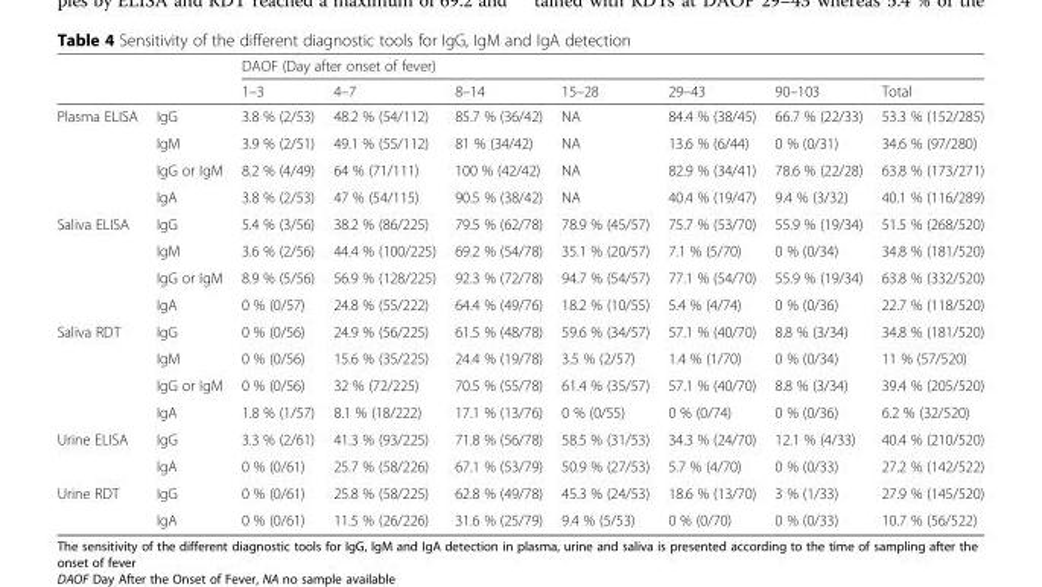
<table><thead><tr><td rowspan="2"></td><td rowspan="2"></td><td colspan="7">DAOF (Day after onset of fever)</td></tr><tr><td>1–3</td><td>4–7</td><td>8–14</td><td>15–28</td><td>29–43</td><td>90–103</td><td>Total</td></tr></thead><tbody><tr><td rowspan="4">Plasma ELISA</td><td>IgG</td><td>3.8 % (2/53)</td><td>48.2 % (54/112)</td><td>85.7 % (36/42)</td><td>NA</td><td>84.4 % (38/45)</td><td>66.7 % (22/33)</td><td>53.3 % (152/285)</td></tr><tr><td>IgM</td><td>3.9 % (2/51)</td><td>49.1 % (55/112)</td><td>81 % (34/42)</td><td>NA</td><td>13.6 % (6/44)</td><td>0 % (0/31)</td><td>34.6 % (97/280)</td></tr><tr><td>IgG or IgM</td><td>8.2 % (4/49)</td><td>64 % (71/111)</td><td>100 % (42/42)</td><td>NA</td><td>82.9 % (34/41)</td><td>78.6 % (22/28)</td><td>63.8 % (173/271)</td></tr><tr><td>IgA</td><td>3.8 % (2/53)</td><td>47 % (54/115)</td><td>90.5 % (38/42)</td><td>NA</td><td>40.4 % (19/47)</td><td>9.4 % (3/32)</td><td>40.1 % (116/289)</td></tr><tr><td rowspan="4">Saliva ELISA</td><td>IgG</td><td>5.4 % (3/56)</td><td>38.2 % (86/225)</td><td>79.5 % (62/78)</td><td>78.9 % (45/57)</td><td>75.7 % (53/70)</td><td>55.9 % (19/34)</td><td>51.5 % (268/520)</td></tr><tr><td>IgM</td><td>3.6 % (2/56)</td><td>44.4 % (100/225)</td><td>69.2 % (54/78)</td><td>35.1 % (20/57)</td><td>7.1 % (5/70)</td><td>0 % (0/34)</td><td>34.8 % (181/520)</td></tr><tr><td>IgG or IgM</td><td>8.9 % (5/56)</td><td>56.9 % (128/225)</td><td>92.3 % (72/78)</td><td>94.7 % (54/57)</td><td>77.1 % (54/70)</td><td>55.9 % (19/34)</td><td>63.8 % (332/520)</td></tr><tr><td>IgA</td><td>0 % (0/57)</td><td>24.8 % (55/222)</td><td>64.4 % (49/76)</td><td>18.2 % (10/55)</td><td>5.4 % (4/74)</td><td>0 % (0/36)</td><td>22.7 % (118/520)</td></tr><tr><td rowspan="4">Saliva RDT</td><td>IgG</td><td>0 % (0/56)</td><td>24.9 % (56/225)</td><td>61.5 % (48/78)</td><td>59.6 % (34/57)</td><td>57.1 % (40/70)</td><td>8.8 % (3/34)</td><td>34.8 % (181/520)</td></tr><tr><td>IgM</td><td>0 % (0/56)</td><td>15.6 % (35/225)</td><td>24.4 % (19/78)</td><td>3.5 % (2/57)</td><td>1.4 % (1/70)</td><td>0 % (0/34)</td><td>11 % (57/520)</td></tr><tr><td>IgG or IgM</td><td>0 % (0/56)</td><td>32 % (72/225)</td><td>70.5 % (55/78)</td><td>61.4 % (35/57)</td><td>57.1 % (40/70)</td><td>8.8 % (3/34)</td><td>39.4 % (205/520)</td></tr><tr><td>IgA</td><td>1.8 % (1/57)</td><td>8.1 % (18/222)</td><td>17.1 % (13/76)</td><td>0 % (0/55)</td><td>0 % (0/74)</td><td>0 % (0/36)</td><td>6.2 % (32/520)</td></tr><tr><td rowspan="2">Urine ELISA</td><td>IgG</td><td>3.3 % (2/61)</td><td>41.3 % (93/225)</td><td>71.8 % (56/78)</td><td>58.5 % (31/53)</td><td>34.3 % (24/70)</td><td>12.1 % (4/33)</td><td>40.4 % (210/520)</td></tr><tr><td>IgA</td><td>0 % (0/61)</td><td>25.7 % (58/226)</td><td>67.1 % (53/79)</td><td>50.9 % (27/53)</td><td>5.7 % (4/70)</td><td>0 % (0/33)</td><td>27.2 % (142/522)</td></tr><tr><td rowspan="2">Urine RDT</td><td>IgG</td><td>0 % (0/61)</td><td>25.8 % (58/225)</td><td>62.8 % (49/78)</td><td>45.3 % (24/53)</td><td>18.6 % (13/70)</td><td>3 % (1/33)</td><td>27.9 % (145/520)</td></tr><tr><td>IgA</td><td>0 % (0/61)</td><td>11.5 % (26/226)</td><td>31.6 % (25/79)</td><td>9.4 % (5/53)</td><td>0 % (0/70)</td><td>0 % (0/33)</td><td>10.7 % (56/522)</td></tr></tbody></table>